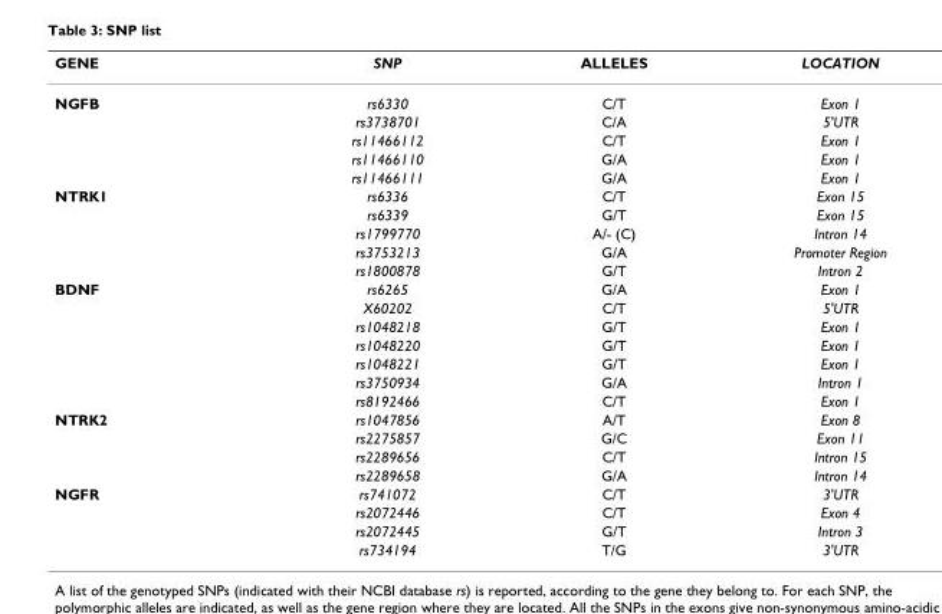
<table><thead><tr><td>GENE</td><td>SNP</td><td>ALLELES</td><td>LOCATION</td></tr></thead><tbody><tr><td rowspan="5">NGFB</td><td>rs6330</td><td>C/T</td><td>Exon 1</td></tr><tr><td>rs3738701</td><td>C/A</td><td>5&#x27;UTR</td></tr><tr><td>rs11466112</td><td>C/T</td><td>Exon 1</td></tr><tr><td>rs11466110</td><td>G/A</td><td>Exon 1</td></tr><tr><td>rs11466111</td><td>G/A</td><td>Exon 1</td></tr><tr><td rowspan="5">NTRK1</td><td>rs6336</td><td>C/T</td><td>Exon 15</td></tr><tr><td>rs6339</td><td>G/T</td><td>Exon 15</td></tr><tr><td>rs1799770</td><td>A/- (C)</td><td>Intron 14</td></tr><tr><td>rs3753213</td><td>G/A</td><td>Promoter Region</td></tr><tr><td>rs1800878</td><td>G/T</td><td>Intron 2</td></tr><tr><td rowspan="7">BDNF</td><td>rs6265</td><td>G/A</td><td>Exon 1</td></tr><tr><td>X60202</td><td>C/T</td><td>5&#x27;UTR</td></tr><tr><td>rs1048218</td><td>G/T</td><td>Exon 1</td></tr><tr><td>rs1048220</td><td>G/T</td><td>Exon 1</td></tr><tr><td>rs1048221</td><td>G/T</td><td>Exon 1</td></tr><tr><td>rs3750934</td><td>G/A</td><td>Intron 1</td></tr><tr><td>rs8192466</td><td>C/T</td><td>Exon 1</td></tr><tr><td rowspan="4">NTRK2</td><td>rs1047856</td><td>A/T</td><td>Exon 8</td></tr><tr><td>rs2275857</td><td>G/C</td><td>Exon 11</td></tr><tr><td>rs2289656</td><td>C/T</td><td>Intron 15</td></tr><tr><td>rs2289658</td><td>G/A</td><td>Intron 14</td></tr><tr><td rowspan="4">NGFR</td><td>rs741072</td><td>C/T</td><td>3&#x27;UTR</td></tr><tr><td>rs2072446</td><td>C/T</td><td>Exon 4</td></tr><tr><td>rs2072445</td><td>G/T</td><td>Intron 3</td></tr><tr><td>rs734194</td><td>T/G</td><td>3&#x27;UTR</td></tr></tbody></table>